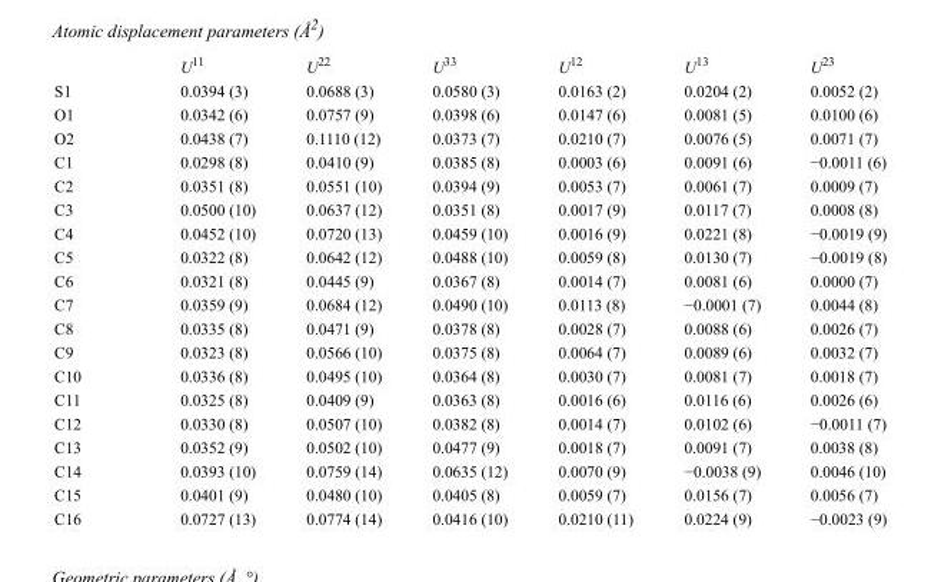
<table><thead><tr><td></td><td>U<sup>11</sup></td><td>U<sup>22</sup></td><td>U<sup>33</sup></td><td>U<sup>12</sup></td><td>U<sup>13</sup></td><td>U<sup>23</sup></td></tr></thead><tbody><tr><td>S1</td><td>0.0394 (3)</td><td>0.0688 (3)</td><td>0.0580 (3)</td><td>0.0163 (2)</td><td>0.0204 (2)</td><td>0.0052 (2)</td></tr><tr><td>O1</td><td>0.0342 (6)</td><td>0.0757 (9)</td><td>0.0398 (6)</td><td>0.0147 (6)</td><td>0.0081 (5)</td><td>0.0100 (6)</td></tr><tr><td>O2</td><td>0.0438 (7)</td><td>0.1110 (12)</td><td>0.0373 (7)</td><td>0.0210 (7)</td><td>0.0076 (5)</td><td>0.0071 (7)</td></tr><tr><td>C1</td><td>0.0298 (8)</td><td>0.0410 (9)</td><td>0.0385 (8)</td><td>0.0003 (6)</td><td>0.0091 (6)</td><td>−0.0011 (6)</td></tr><tr><td>C2</td><td>0.0351 (8)</td><td>0.0551 (10)</td><td>0.0394 (9)</td><td>0.0053 (7)</td><td>0.0061 (7)</td><td>0.0009 (7)</td></tr><tr><td>C3</td><td>0.0500 (10)</td><td>0.0637 (12)</td><td>0.0351 (8)</td><td>0.0017 (9)</td><td>0.0117 (7)</td><td>0.0008 (8)</td></tr><tr><td>C4</td><td>0.0452 (10)</td><td>0.0720 (13)</td><td>0.0459 (10)</td><td>0.0016 (9)</td><td>0.0221 (8)</td><td>−0.0019 (9)</td></tr><tr><td>C5</td><td>0.0322 (8)</td><td>0.0642 (12)</td><td>0.0488 (10)</td><td>0.0059 (8)</td><td>0.0130 (7)</td><td>−0.0019 (8)</td></tr><tr><td>C6</td><td>0.0321 (8)</td><td>0.0445 (9)</td><td>0.0367 (8)</td><td>0.0014 (7)</td><td>0.0081 (6)</td><td>0.0000 (7)</td></tr><tr><td>C7</td><td>0.0359 (9)</td><td>0.0684 (12)</td><td>0.0490 (10)</td><td>0.0113 (8)</td><td>−0.0001 (7)</td><td>0.0044 (8)</td></tr><tr><td>C8</td><td>0.0335 (8)</td><td>0.0471 (9)</td><td>0.0378 (8)</td><td>0.0028 (7)</td><td>0.0088 (6)</td><td>0.0026 (7)</td></tr><tr><td>C9</td><td>0.0323 (8)</td><td>0.0566 (10)</td><td>0.0375 (8)</td><td>0.0064 (7)</td><td>0.0089 (6)</td><td>0.0032 (7)</td></tr><tr><td>C10</td><td>0.0336 (8)</td><td>0.0495 (10)</td><td>0.0364 (8)</td><td>0.0030 (7)</td><td>0.0081 (7)</td><td>0.0018 (7)</td></tr><tr><td>C11</td><td>0.0325 (8)</td><td>0.0409 (9)</td><td>0.0363 (8)</td><td>0.0016 (6)</td><td>0.0116 (6)</td><td>0.0026 (6)</td></tr><tr><td>C12</td><td>0.0330 (8)</td><td>0.0507 (10)</td><td>0.0382 (8)</td><td>0.0014 (7)</td><td>0.0102 (6)</td><td>−0.0011 (7)</td></tr><tr><td>C13</td><td>0.0352 (9)</td><td>0.0502 (10)</td><td>0.0477 (9)</td><td>0.0018 (7)</td><td>0.0091 (7)</td><td>0.0038 (8)</td></tr><tr><td>C14</td><td>0.0393 (10)</td><td>0.0759 (14)</td><td>0.0635 (12)</td><td>0.0070 (9)</td><td>−0.0038 (9)</td><td>0.0046 (10)</td></tr><tr><td>C15</td><td>0.0401 (9)</td><td>0.0480 (10)</td><td>0.0405 (8)</td><td>0.0059 (7)</td><td>0.0156 (7)</td><td>0.0056 (7)</td></tr><tr><td>C16</td><td>0.0727 (13)</td><td>0.0774 (14)</td><td>0.0416 (10)</td><td>0.0210 (11)</td><td>0.0224 (9)</td><td>−0.0023 (9)</td></tr></tbody></table>